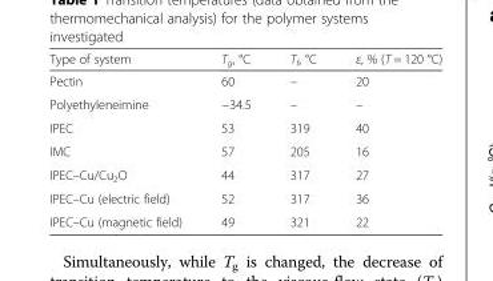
<table><thead><tr><td>Type of system</td><td>Т<sub>g</sub>, °С</td><td>Т<sub>f</sub>, °С</td><td>ε, % (Т = 120 °С)</td></tr></thead><tbody><tr><td>Pectin</td><td>60</td><td>–</td><td>20</td></tr><tr><td>Polyethyleneimine</td><td>−34.5</td><td>–</td><td>–</td></tr><tr><td>IPEC</td><td>53</td><td>319</td><td>40</td></tr><tr><td>IMC</td><td>57</td><td>205</td><td>16</td></tr><tr><td>IPEC–Cu/Cu<sub>2</sub>O</td><td>44</td><td>317</td><td>27</td></tr><tr><td>IPEC–Cu (electric field)</td><td>52</td><td>317</td><td>36</td></tr><tr><td>IPEC–Cu (magnetic field)</td><td>49</td><td>321</td><td>22</td></tr></tbody></table>